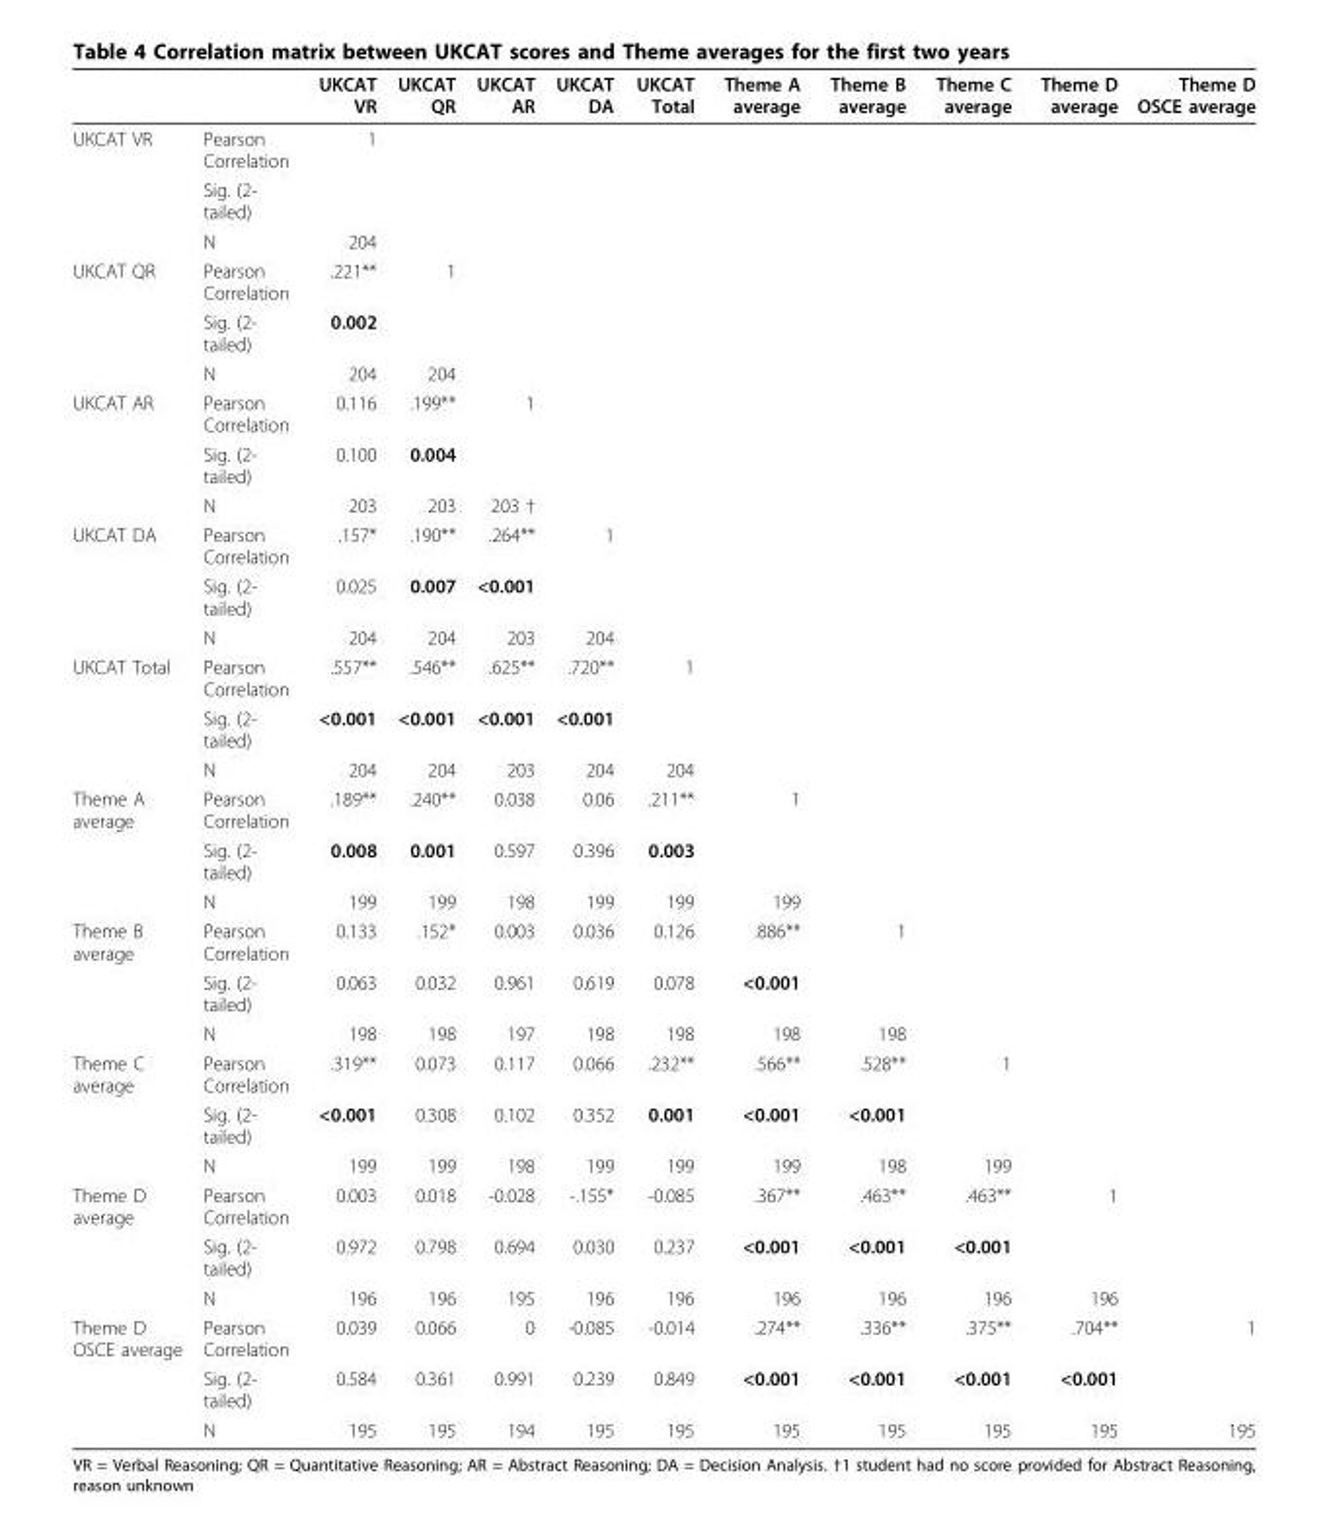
<table><thead><tr><td></td><td></td><td>UKCAT VR</td><td>UKCAT QR</td><td>UKCAT AR</td><td>UKCAT DA</td><td>UKCAT Total</td><td>Theme A average</td><td>Theme B average</td><td>Theme C average</td><td>Theme D average</td><td>Theme D OSCE average</td></tr></thead><tbody><tr><td rowspan="3">UKCAT VR</td><td>Pearson Correlation</td><td>1</td><td></td><td></td><td></td><td></td><td></td><td></td><td></td><td></td><td></td></tr><tr><td>Sig. (2- tailed)</td><td></td><td></td><td></td><td></td><td></td><td></td><td></td><td></td><td></td><td></td></tr><tr><td>N</td><td>204</td><td></td><td></td><td></td><td></td><td></td><td></td><td></td><td></td><td></td></tr><tr><td rowspan="3">UKCAT QR</td><td>Pearson Correlation</td><td>.221**</td><td>1</td><td></td><td></td><td></td><td></td><td></td><td></td><td></td><td></td></tr><tr><td>Sig. (2- tailed)</td><td>0.002</td><td></td><td></td><td></td><td></td><td></td><td></td><td></td><td></td><td></td></tr><tr><td>N</td><td>204</td><td>204</td><td></td><td></td><td></td><td></td><td></td><td></td><td></td><td></td></tr><tr><td rowspan="3">UKCAT AR</td><td>Pearson Correlation</td><td>0.116</td><td>.199**</td><td>1</td><td></td><td></td><td></td><td></td><td></td><td></td><td></td></tr><tr><td>Sig. (2- tailed)</td><td>0.100</td><td>0.004</td><td></td><td></td><td></td><td></td><td></td><td></td><td></td><td></td></tr><tr><td>N</td><td>203</td><td>203</td><td>203 †</td><td></td><td></td><td></td><td></td><td></td><td></td><td></td></tr><tr><td rowspan="3">UKCAT DA</td><td>Pearson Correlation</td><td>.157*</td><td>.190**</td><td>.264**</td><td>1</td><td></td><td></td><td></td><td></td><td></td><td></td></tr><tr><td>Sig. (2- tailed)</td><td>0.025</td><td>0.007</td><td>&lt;0.001</td><td></td><td></td><td></td><td></td><td></td><td></td><td></td></tr><tr><td>N</td><td>204</td><td>204</td><td>203</td><td>204</td><td></td><td></td><td></td><td></td><td></td><td></td></tr><tr><td rowspan="3">UKCAT Total</td><td>Pearson Correlation</td><td>.557**</td><td>.546**</td><td>.625**</td><td>.720**</td><td>1</td><td></td><td></td><td></td><td></td><td></td></tr><tr><td>Sig. (2- tailed)</td><td>&lt;0.001</td><td>&lt;0.001</td><td>&lt;0.001</td><td>&lt;0.001</td><td></td><td></td><td></td><td></td><td></td><td></td></tr><tr><td>N</td><td>204</td><td>204</td><td>203</td><td>204</td><td>204</td><td></td><td></td><td></td><td></td><td></td></tr><tr><td rowspan="3">Theme A average</td><td>Pearson Correlation</td><td>.189**</td><td>.240**</td><td>0.038</td><td>0.06</td><td>.211**</td><td>1</td><td></td><td></td><td></td><td></td></tr><tr><td>Sig. (2- tailed)</td><td>0.008</td><td>0.001</td><td>0.597</td><td>0.396</td><td>0.003</td><td></td><td></td><td></td><td></td><td></td></tr><tr><td>N</td><td>199</td><td>199</td><td>198</td><td>199</td><td>199</td><td>199</td><td></td><td></td><td></td><td></td></tr><tr><td rowspan="3">Theme B average</td><td>Pearson Correlation</td><td>0.133</td><td>.152*</td><td>0.003</td><td>0.036</td><td>0.126</td><td>.886**</td><td>1</td><td></td><td></td><td></td></tr><tr><td>Sig. (2- tailed)</td><td>0.063</td><td>0.032</td><td>0.961</td><td>0.619</td><td>0.078</td><td>&lt;0.001</td><td></td><td></td><td></td><td></td></tr><tr><td>N</td><td>198</td><td>198</td><td>197</td><td>198</td><td>198</td><td>198</td><td>198</td><td></td><td></td><td></td></tr><tr><td rowspan="3">Theme C average</td><td>Pearson Correlation</td><td>.319**</td><td>0.073</td><td>0.117</td><td>0.066</td><td>.232**</td><td>.566**</td><td>.528**</td><td>1</td><td></td><td></td></tr><tr><td>Sig. (2- tailed)</td><td>&lt;0.001</td><td>0.308</td><td>0.102</td><td>0.352</td><td>0.001</td><td>&lt;0.001</td><td>&lt;0.001</td><td></td><td></td><td></td></tr><tr><td>N</td><td>199</td><td>199</td><td>198</td><td>199</td><td>199</td><td>199</td><td>198</td><td>199</td><td></td><td></td></tr><tr><td rowspan="3">Theme D average</td><td>Pearson Correlation</td><td>0.003</td><td>0.018</td><td>-0.028</td><td>-.155*</td><td>-0.085</td><td>.367**</td><td>.463**</td><td>.463**</td><td>1</td><td></td></tr><tr><td>Sig. (2- tailed)</td><td>0.972</td><td>0.798</td><td>0.694</td><td>0.030</td><td>0.237</td><td>&lt;0.001</td><td>&lt;0.001</td><td>&lt;0.001</td><td></td><td></td></tr><tr><td>N</td><td>196</td><td>196</td><td>195</td><td>196</td><td>196</td><td>196</td><td>196</td><td>196</td><td>196</td><td></td></tr><tr><td rowspan="3">Theme D OSCE average</td><td>Pearson Correlation</td><td>0.039</td><td>0.066</td><td>0</td><td>-0.085</td><td>-0.014</td><td>.274**</td><td>.336**</td><td>.375**</td><td>.704**</td><td>1</td></tr><tr><td>Sig. (2- tailed)</td><td>0.584</td><td>0.361</td><td>0.991</td><td>0.239</td><td>0.849</td><td>&lt;0.001</td><td>&lt;0.001</td><td>&lt;0.001</td><td>&lt;0.001</td><td></td></tr><tr><td>N</td><td>195</td><td>195</td><td>194</td><td>195</td><td>195</td><td>195</td><td>195</td><td>195</td><td>195</td><td>195</td></tr></tbody></table>